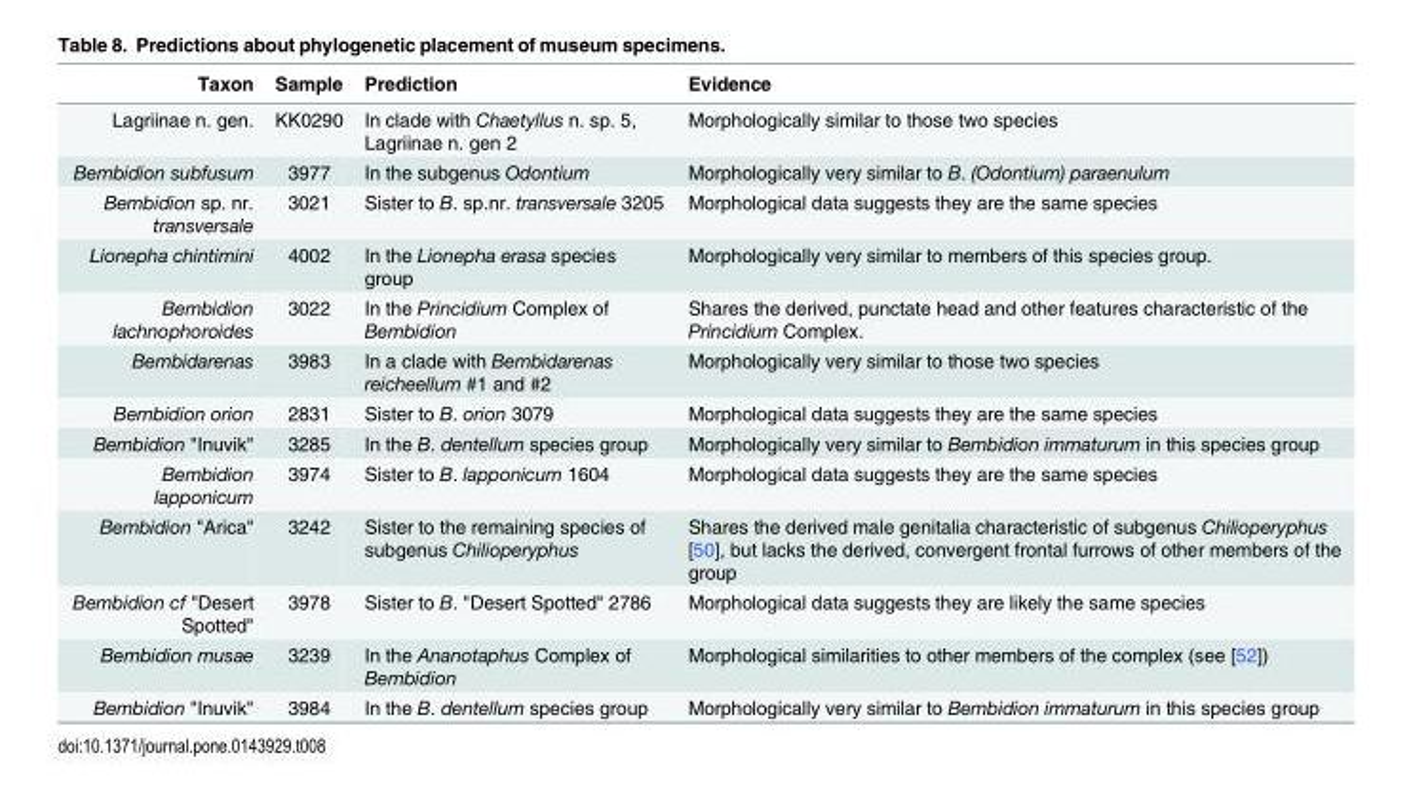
<table><thead><tr><td>Taxon</td><td>Sample</td><td>Prediction</td><td>Evidence</td></tr></thead><tbody><tr><td>Lagriinae n. gen.</td><td>KK0290</td><td>In clade with Chaetyllus n. sp. 5, Lagriinae n. gen 2</td><td>Morphologically similar to those two species</td></tr><tr><td>Bembidion subfusum</td><td>3977</td><td>In the subgenus Odontium</td><td>Morphologically very similar to B. (Odontium) paraenulum</td></tr><tr><td>Bembidion sp. nr. transversale</td><td>3021</td><td>Sister to B. sp.nr. transversale 3205</td><td>Morphological data suggests they are the same species</td></tr><tr><td>Lionepha chintimini</td><td>4002</td><td>In the Lionepha erasa species group</td><td>Morphologically very similar to members of this species group.</td></tr><tr><td>Bembidion lachnophoroides</td><td>3022</td><td>In the Princidium Complex of Bembidion</td><td>Shares the derived, punctate head and other features characteristic of the Princidium Complex.</td></tr><tr><td>Bembidarenas</td><td>3983</td><td>In a clade with Bembidarenas reicheellum #1 and #2</td><td>Morphologically very similar to those two species</td></tr><tr><td>Bembidion orion</td><td>2831</td><td>Sister to B. orion 3079</td><td>Morphological data suggests they are the same species</td></tr><tr><td>Bembidion &quot;Inuvik&quot;</td><td>3285</td><td>In the B. dentellum species group</td><td>Morphologically very similar to Bembidion immaturum in this species group</td></tr><tr><td>Bembidion lapponicum</td><td>3974</td><td>Sister to B. lapponicum 1604</td><td>Morphological data suggests they are the same species</td></tr><tr><td>Bembidion &quot;Arica&quot;</td><td>3242</td><td>Sister to the remaining species of subgenus Chilioperyphus</td><td>Shares the derived male genitalia characteristic of subgenus Chilioperyphus [50], but lacks the derived, convergent frontal furrows of other members of the group</td></tr><tr><td>Bembidion cf &quot;Desert Spotted&quot;</td><td>3978</td><td>Sister to B. &quot;Desert Spotted&quot; 2786</td><td>Morphological data suggests they are likely the same species</td></tr><tr><td>Bembidion musae</td><td>3239</td><td>In the Ananotaphus Complex of Bembidion</td><td>Morphological similarities to other members of the complex (see [52])</td></tr><tr><td>Bembidion &quot;Inuvik&quot;</td><td>3984</td><td>In the B. dentellum species group</td><td>Morphologically very similar to Bembidion immaturum in this species group</td></tr></tbody></table>